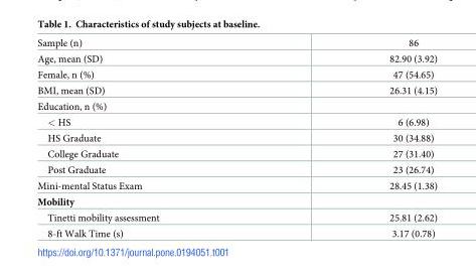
<table><tbody><tr><td>Sample (n)</td><td>86</td></tr><tr><td>Age, mean (SD)</td><td>82.90 (3.92)</td></tr><tr><td>Female, n (%)</td><td>47 (54.65)</td></tr><tr><td>BMI, mean (SD)</td><td>26.31 (4.15)</td></tr><tr><td colspan="2">Education, n (%)</td></tr><tr><td>&lt; HS</td><td>6 (6.98)</td></tr><tr><td>HS Graduate</td><td>30 (34.88)</td></tr><tr><td>College Graduate</td><td>27 (31.40)</td></tr><tr><td>Post Graduate</td><td>23 (26.74)</td></tr><tr><td>Mini-mental Status Exam</td><td>28.45 (1.38)</td></tr><tr><td colspan="2">Mobility</td></tr><tr><td>Tinetti mobility assessment</td><td>25.81 (2.62)</td></tr><tr><td>8-ft Walk Time (s)</td><td>3.17 (0.78)</td></tr></tbody></table>